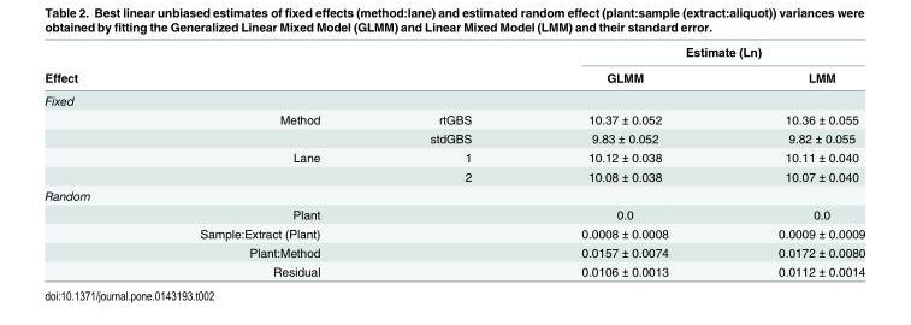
<table><thead><tr><td rowspan="2">Effect</td><td rowspan="2"></td><td rowspan="2"></td><td colspan="2">Estimate (Ln)</td></tr><tr><td>GLMM</td><td>LMM</td></tr></thead><tbody><tr><td colspan="5">Fixed</td></tr><tr><td></td><td>Method</td><td>rtGBS</td><td>10.37 ± 0.052</td><td>10.36 ± 0.055</td></tr><tr><td></td><td></td><td>stdGBS</td><td>9.83 ± 0.052</td><td>9.82 ± 0.055</td></tr><tr><td></td><td>Lane</td><td>1</td><td>10.12 ± 0.038</td><td>10.11 ± 0.040</td></tr><tr><td></td><td></td><td>2</td><td>10.08 ± 0.038</td><td>10.07 ± 0.040</td></tr><tr><td colspan="5">Random</td></tr><tr><td></td><td>Plant</td><td></td><td>0.0</td><td>0.0</td></tr><tr><td></td><td>Sample:Extract (Plant)</td><td></td><td>0.0008 ± 0.0008</td><td>0.0009 ± 0.0009</td></tr><tr><td></td><td>Plant:Method</td><td></td><td>0.0157 ± 0.0074</td><td>0.0172 ± 0.0080</td></tr><tr><td></td><td>Residual</td><td></td><td>0.0106 ± 0.0013</td><td>0.0112 ± 0.0014</td></tr></tbody></table>